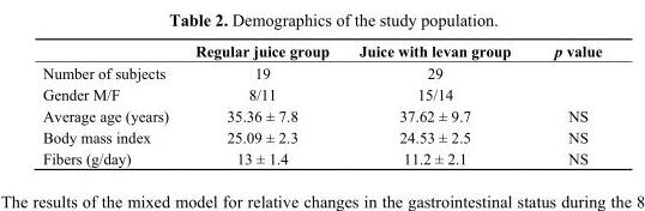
<table><thead><tr><td></td><td>Regular juice group</td><td>Juice with levan group</td><td>p value</td></tr></thead><tbody><tr><td>Number of subjects</td><td>19</td><td>29</td><td></td></tr><tr><td>Gender M/F</td><td>8/11</td><td>15/14</td><td></td></tr><tr><td>Average age (years)</td><td>35.36 ± 7.8</td><td>37.62 ± 9.7</td><td>NS</td></tr><tr><td>Body mass index</td><td>25.09 ± 2.3</td><td>24.53 ± 2.5</td><td>NS</td></tr><tr><td>Fibers (g/day)</td><td>13 ± 1.4</td><td>11.2 ± 2.1</td><td>NS</td></tr></tbody></table>